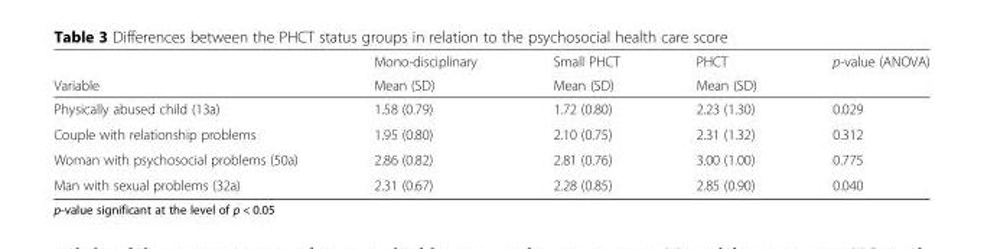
<table><thead><tr><td rowspan="2">Variable</td><td rowspan="2">Mono-disciplinary Mean (SD)</td><td rowspan="2">Small PHCT Mean (SD)</td><td rowspan="2">PHCT Mean (SD)</td><td rowspan="2">p-value (ANOVA)</td></tr><tr></tr></thead><tbody><tr><td>Physically abused child (13a)</td><td>1.58 (0.79)</td><td>1.72 (0.80)</td><td>2.23 (1.30)</td><td>0.029</td></tr><tr><td>Couple with relationship problems</td><td>1.95 (0.80)</td><td>2.10 (0.75)</td><td>2.31 (1.32)</td><td>0.312</td></tr><tr><td>Woman with psychosocial problems (50a)</td><td>2.86 (0.82)</td><td>2.81 (0.76)</td><td>3.00 (1.00)</td><td>0.775</td></tr><tr><td>Man with sexual problems (32a)</td><td>2.31 (0.67)</td><td>2.28 (0.85)</td><td>2.85 (0.90)</td><td>0.040</td></tr></tbody></table>